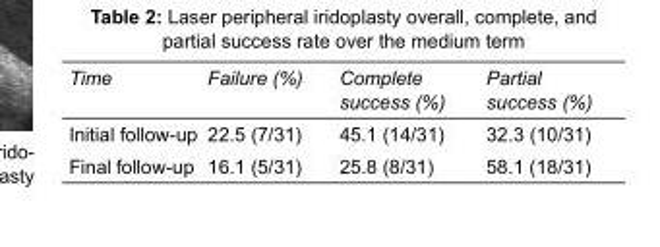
<table><tbody><tr><td>Time</td><td>Failure (%)</td><td>Complete success (%)</td><td>Partial success (%)</td></tr><tr><td>Initial follow-up</td><td>22.5 (7/31)</td><td>45.1 (14/31)</td><td>32.3 (10/31)</td></tr><tr><td>Final follow-up</td><td>16.1 (5/31)</td><td>25.8 (8/31)</td><td>58.1 (18/31)</td></tr></tbody></table>